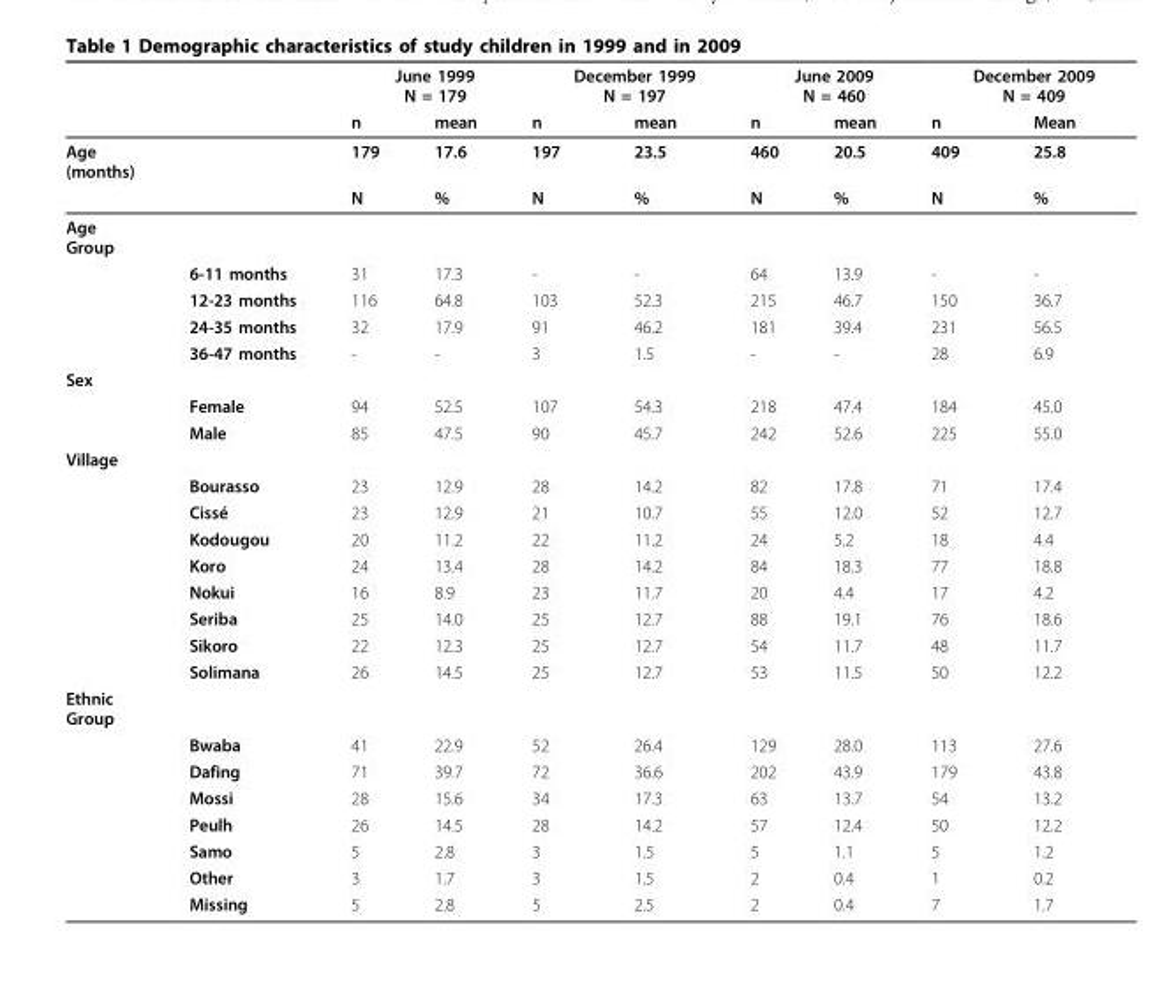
<table><thead><tr><td rowspan="2"></td><td rowspan="2"></td><td colspan="2">June 1999 N = 179</td><td colspan="2">December 1999 N = 197</td><td colspan="2">June 2009 N = 460</td><td colspan="2">December 2009 N = 409</td></tr><tr><td>n</td><td>mean</td><td>n</td><td>mean</td><td>n</td><td>mean</td><td>n</td><td>Mean</td></tr></thead><tbody><tr><td rowspan="2">Age (months)</td><td></td><td>179</td><td>17.6</td><td>197</td><td>23.5</td><td>460</td><td>20.5</td><td>409</td><td>25.8</td></tr><tr><td></td><td>N</td><td>%</td><td>N</td><td>%</td><td>N</td><td>%</td><td>N</td><td>%</td></tr><tr><td colspan="10">Age Group</td></tr><tr><td></td><td>6-11 months</td><td>31</td><td>17.3</td><td>-</td><td>-</td><td>64</td><td>13.9</td><td>-</td><td>-</td></tr><tr><td></td><td>12-23 months</td><td>116</td><td>64.8</td><td>103</td><td>52.3</td><td>215</td><td>46.7</td><td>150</td><td>36.7</td></tr><tr><td></td><td>24-35 months</td><td>32</td><td>17.9</td><td>91</td><td>46.2</td><td>181</td><td>39.4</td><td>231</td><td>56.5</td></tr><tr><td></td><td>36-47 months</td><td>-</td><td>-</td><td>3</td><td>1.5</td><td>-</td><td>-</td><td>28</td><td>6.9</td></tr><tr><td colspan="10">Sex</td></tr><tr><td></td><td>Female</td><td>94</td><td>52.5</td><td>107</td><td>54.3</td><td>218</td><td>47.4</td><td>184</td><td>45.0</td></tr><tr><td></td><td>Male</td><td>85</td><td>47.5</td><td>90</td><td>45.7</td><td>242</td><td>52.6</td><td>225</td><td>55.0</td></tr><tr><td colspan="10">Village</td></tr><tr><td></td><td>Bourasso</td><td>23</td><td>12.9</td><td>28</td><td>14.2</td><td>82</td><td>17.8</td><td>71</td><td>17.4</td></tr><tr><td></td><td>Cissé</td><td>23</td><td>12.9</td><td>21</td><td>10.7</td><td>55</td><td>12.0</td><td>52</td><td>12.7</td></tr><tr><td></td><td>Kodougou</td><td>20</td><td>11.2</td><td>22</td><td>11.2</td><td>24</td><td>5.2</td><td>18</td><td>4.4</td></tr><tr><td></td><td>Koro</td><td>24</td><td>13.4</td><td>28</td><td>14.2</td><td>84</td><td>18.3</td><td>77</td><td>18.8</td></tr><tr><td></td><td>Nokui</td><td>16</td><td>8.9</td><td>23</td><td>11.7</td><td>20</td><td>4.4</td><td>17</td><td>4.2</td></tr><tr><td></td><td>Seriba</td><td>25</td><td>14.0</td><td>25</td><td>12.7</td><td>88</td><td>19.1</td><td>76</td><td>18.6</td></tr><tr><td></td><td>Sikoro</td><td>22</td><td>12.3</td><td>25</td><td>12.7</td><td>54</td><td>11.7</td><td>48</td><td>11.7</td></tr><tr><td></td><td>Solimana</td><td>26</td><td>14.5</td><td>25</td><td>12.7</td><td>53</td><td>11.5</td><td>50</td><td>12.2</td></tr><tr><td colspan="10">Ethnic Group</td></tr><tr><td></td><td>Bwaba</td><td>41</td><td>22.9</td><td>52</td><td>26.4</td><td>129</td><td>28.0</td><td>113</td><td>27.6</td></tr><tr><td></td><td>Dafing</td><td>71</td><td>39.7</td><td>72</td><td>36.6</td><td>202</td><td>43.9</td><td>179</td><td>43.8</td></tr><tr><td></td><td>Mossi</td><td>28</td><td>15.6</td><td>34</td><td>17.3</td><td>63</td><td>13.7</td><td>54</td><td>13.2</td></tr><tr><td></td><td>Peulh</td><td>26</td><td>14.5</td><td>28</td><td>14.2</td><td>57</td><td>12.4</td><td>50</td><td>12.2</td></tr><tr><td></td><td>Samo</td><td>5</td><td>2.8</td><td>3</td><td>1.5</td><td>5</td><td>1.1</td><td>5</td><td>1.2</td></tr><tr><td></td><td>Other</td><td>3</td><td>1.7</td><td>3</td><td>1.5</td><td>2</td><td>0.4</td><td>1</td><td>0.2</td></tr><tr><td></td><td>Missing</td><td>5</td><td>2.8</td><td>5</td><td>2.5</td><td>2</td><td>0.4</td><td>7</td><td>1.7</td></tr></tbody></table>